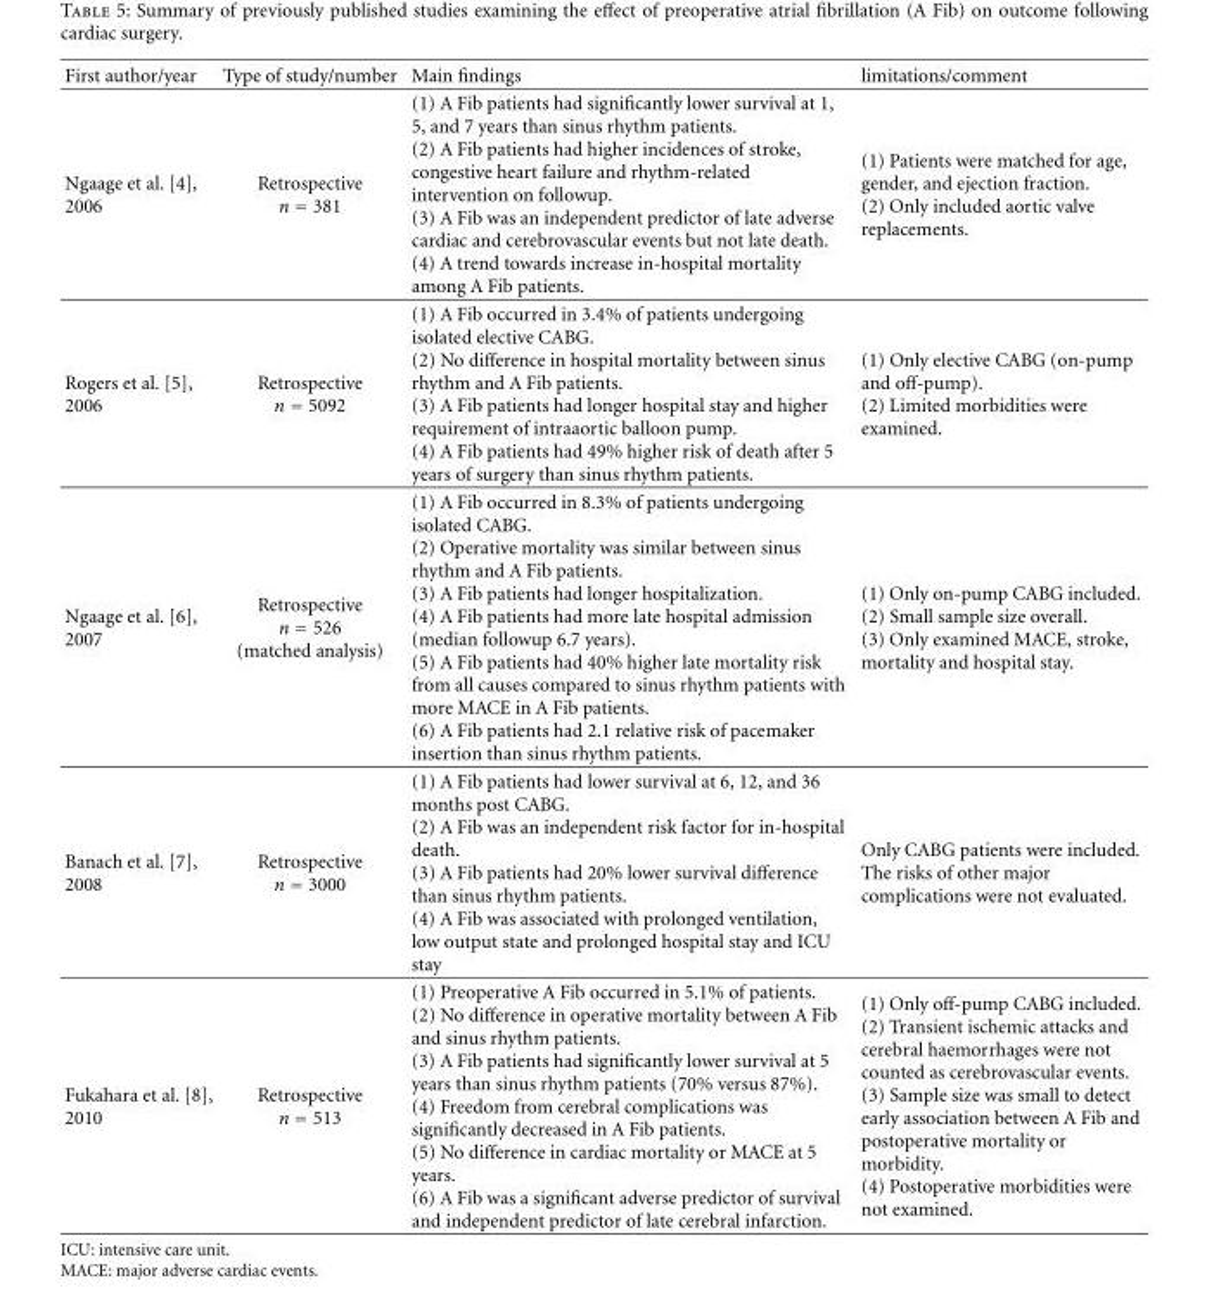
<table><thead><tr><td>First author/year</td><td>Type of study/number</td><td>Main findings</td><td>limitations/comment</td></tr></thead><tbody><tr><td>Ngaage et al. [4], 2006</td><td>Retrospective n = 381</td><td>(1) A Fib patients had significantly lower survival at 1, 5, and 7 years than sinus rhythm patients. (2) A Fib patients had higher incidences of stroke, congestive heart failure and rhythm-related intervention on followup. (3) A Fib was an independent predictor of late adverse cardiac and cerebrovascular events but not late death. (4) A trend towards increase in-hospital mortality among A Fib patients.</td><td>(1) Patients were matched for age, gender, and ejection fraction. (2) Only included aortic valve replacements.</td></tr><tr><td>Rogers et al. [5], 2006</td><td>Retrospective n = 5092</td><td>(1) A Fib occurred in 3.4% of patients undergoing isolated elective CABG. (2) No difference in hospital mortality between sinus rhythm and A Fib patients. (3) A Fib patients had longer hospital stay and higher requirement of intraaortic balloon pump. (4) A Fib patients had 49% higher risk of death after 5 years of surgery than sinus rhythm patients.</td><td>(1) Only elective CABG (on-pump and off-pump). (2) Limited morbidities were examined.</td></tr><tr><td>Ngaage et al. [6], 2007</td><td>Retrospective n = 526 (matched analysis)</td><td>(1) A Fib occurred in 8.3% of patients undergoing isolated CABG. (2) Operative mortality was similar between sinus rhythm and A Fib patients. (3) A Fib patients had longer hospitalization. (4) A Fib patients had more late hospital admission (median followup 6.7 years). (5) A Fib patients had 40% higher late mortality risk from all causes compared to sinus rhythm patients with more MACE in A Fib patients. (6) A Fib patients had 2.1 relative risk of pacemaker insertion than sinus rhythm patients.</td><td>(1) Only on-pump CABG included. (2) Small sample size overall. (3) Only examined MACE, stroke, mortality and hospital stay.</td></tr><tr><td>Banach et al. [7], 2008</td><td>Retrospective n = 3000</td><td>(1) A Fib patients had lower survival at 6, 12, and 36 months post CABG. (2) A Fib was an independent risk factor for in-hospital death. (3) A Fib patients had 20% lower survival difference than sinus rhythm patients. (4) A Fib was associated with prolonged ventilation, low output state and prolonged hospital stay and ICU stay</td><td>Only CABG patients were included. The risks of other major complications were not evaluated.</td></tr><tr><td>Fukahara et al. [8], 2010</td><td>Retrospective n = 513</td><td>(1) Preoperative A Fib occurred in 5.1% of patients. (2) No difference in operative mortality between A Fib and sinus rhythm patients. (3) A Fib patients had significantly lower survival at 5 years than sinus rhythm patients (70% versus 87%). (4) Freedom from cerebral complications was significantly decreased in A Fib patients. (5) No difference in cardiac mortality or MACE at 5 years. (6) A Fib was a significant adverse predictor of survival and independent predictor of late cerebral infarction.</td><td>(1) Only off-pump CABG included. (2) Transient ischemic attacks and cerebral haemorrhages were not counted as cerebrovascular events. (3) Sample size was small to detect early association between A Fib and postoperative mortality or morbidity. (4) Postoperative morbidities were not examined.</td></tr></tbody></table>